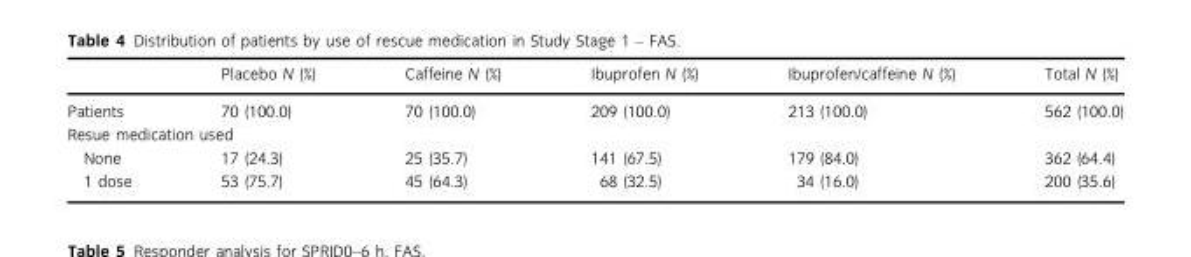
<table><thead><tr><td></td><td>Placebo N (%)</td><td>Caffeine N (%)</td><td>Ibuprofen N (%)</td><td>Ibuprofen/caffeine N (%)</td><td>Total N (%)</td></tr></thead><tbody><tr><td>Patients</td><td>70 (100.0)</td><td>70 (100.0)</td><td>209 (100.0)</td><td>213 (100.0)</td><td>562 (100.0)</td></tr><tr><td colspan="6">Resue medication used</td></tr><tr><td>None</td><td>17 (24.3)</td><td>25 (35.7)</td><td>141 (67.5)</td><td>179 (84.0)</td><td>362 (64.4)</td></tr><tr><td>1 dose</td><td>53 (75.7)</td><td>45 (64.3)</td><td>68 (32.5)</td><td>34 (16.0)</td><td>200 (35.6)</td></tr></tbody></table>